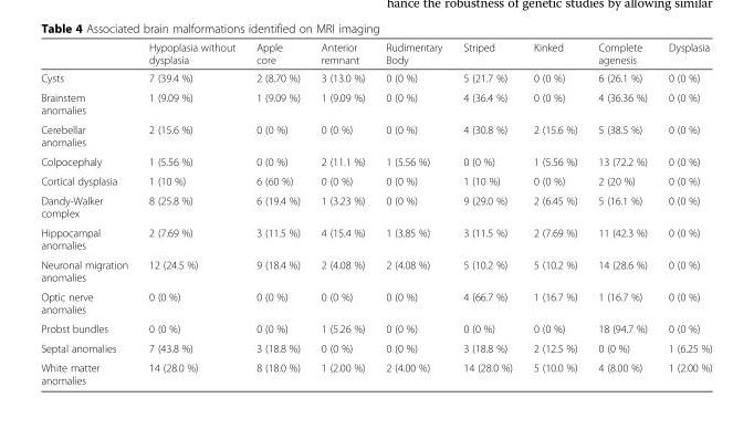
<table><thead><tr><td></td><td>Hypoplasia without dysplasia</td><td>Apple core</td><td>Anterior remnant</td><td>Rudimentary Body</td><td>Striped</td><td>Kinked</td><td>Complete agenesis</td><td>Dysplasia</td></tr></thead><tbody><tr><td>Cysts</td><td>7 (39.4 %)</td><td>2 (8.70 %)</td><td>3 (13.0 %)</td><td>0 (0 %)</td><td>5 (21.7 %)</td><td>0 (0 %)</td><td>6 (26.1 %)</td><td>0 (0 %)</td></tr><tr><td>Brainstem anomalies</td><td>1 (9.09 %)</td><td>1 (9.09 %)</td><td>1 (9.09 %)</td><td>0 (0 %)</td><td>4 (36.4 %)</td><td>0 (0 %)</td><td>4 (36.36 %)</td><td>0 (0 %)</td></tr><tr><td>Cerebellar anomalies</td><td>2 (15.6 %)</td><td>0 (0 %)</td><td>0 (0 %)</td><td>0 (0 %)</td><td>4 (30.8 %)</td><td>2 (15.6 %)</td><td>5 (38.5 %)</td><td>0 (0 %)</td></tr><tr><td>Colpocephaly</td><td>1 (5.56 %)</td><td>0 (0 %)</td><td>2 (11.1 %)</td><td>1 (5.56 %)</td><td>0 (0 %)</td><td>1 (5.56 %)</td><td>13 (72.2 %)</td><td>0 (0 %)</td></tr><tr><td>Cortical dysplasia</td><td>1 (10 %)</td><td>6 (60 %)</td><td>0 (0 %)</td><td>0 (0 %)</td><td>1 (10 %)</td><td>0 (0 %)</td><td>2 (20 %)</td><td>0 (0 %)</td></tr><tr><td>Dandy-Walker complex</td><td>8 (25.8 %)</td><td>6 (19.4 %)</td><td>1 (3.23 %)</td><td>0 (0 %)</td><td>9 (29.0 %)</td><td>2 (6.45 %)</td><td>5 (16.1 %)</td><td>0 (0 %)</td></tr><tr><td>Hippocampal anomalies</td><td>2 (7.69 %)</td><td>3 (11.5 %)</td><td>4 (15.4 %)</td><td>1 (3.85 %)</td><td>3 (11.5 %)</td><td>2 (7.69 %)</td><td>11 (42.3 %)</td><td>0 (0 %)</td></tr><tr><td>Neuronal migration anomalies</td><td>12 (24.5 %)</td><td>9 (18.4 %)</td><td>2 (4.08 %)</td><td>2 (4.08 %)</td><td>5 (10.2 %)</td><td>5 (10.2 %)</td><td>14 (28.6 %)</td><td>0 (0 %)</td></tr><tr><td>Optic nerve anomalies</td><td>0 (0 %)</td><td>0 (0 %)</td><td>0 (0 %)</td><td>0 (0 %)</td><td>4 (66.7 %)</td><td>1 (16.7 %)</td><td>1 (16.7 %)</td><td>0 (0 %)</td></tr><tr><td>Probst bundles</td><td>0 (0 %)</td><td>0 (0 %)</td><td>1 (5.26 %)</td><td>0 (0 %)</td><td>0 (0 %)</td><td>0 (0 %)</td><td>18 (94.7 %)</td><td>0 (0 %)</td></tr><tr><td>Septal anomalies</td><td>7 (43.8 %)</td><td>3 (18.8 %)</td><td>0 (0 %)</td><td>0 (0 %)</td><td>3 (18.8 %)</td><td>2 (12.5 %)</td><td>0 (0 %)</td><td>1 (6.25 %)</td></tr><tr><td>White matter anomalies</td><td>14 (28.0 %)</td><td>8 (18.0 %)</td><td>1 (2.00 %)</td><td>2 (4.00 %)</td><td>14 (28.0 %)</td><td>5 (10.0 %)</td><td>4 (8.00 %)</td><td>1 (2.00 %)</td></tr></tbody></table>